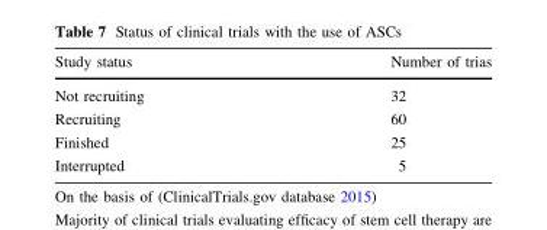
<table><thead><tr><td>Study status</td><td>Number of trias</td></tr></thead><tbody><tr><td>Not recruiting</td><td>32</td></tr><tr><td>Recruiting</td><td>60</td></tr><tr><td>Finished</td><td>25</td></tr><tr><td>Interrupted</td><td>5</td></tr></tbody></table>